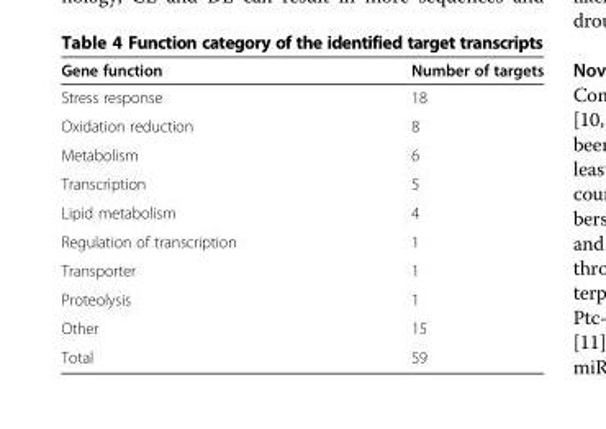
<table><thead><tr><td>Gene function</td><td>Number of targets</td></tr></thead><tbody><tr><td>Stress response</td><td>18</td></tr><tr><td>Oxidation reduction</td><td>8</td></tr><tr><td>Metabolism</td><td>6</td></tr><tr><td>Transcription</td><td>5</td></tr><tr><td>Lipid metabolism</td><td>4</td></tr><tr><td>Regulation of transcription</td><td>1</td></tr><tr><td>Transporter</td><td>1</td></tr><tr><td>Proteolysis</td><td>1</td></tr><tr><td>Other</td><td>15</td></tr><tr><td>Total</td><td>59</td></tr></tbody></table>